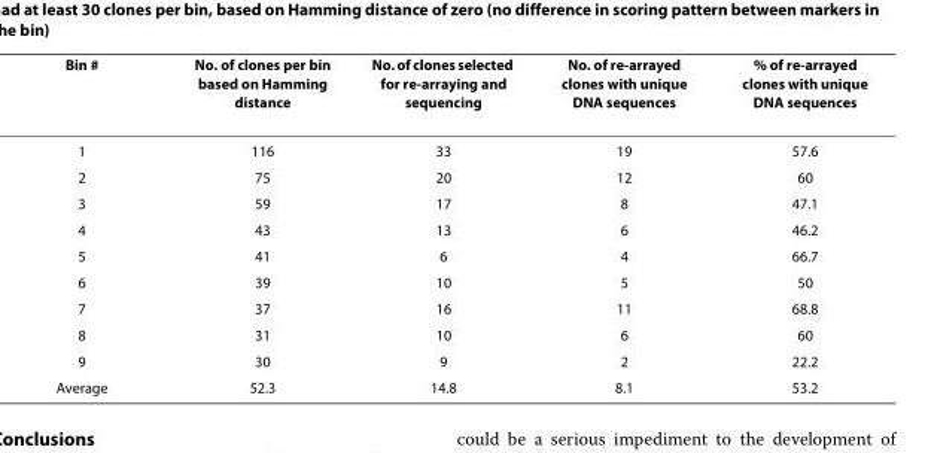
<table><thead><tr><td>Bin #</td><td>No. of clones per bin based on Hamming distance</td><td>No. of clones selected for re-arraying and sequencing</td><td>No. of re-arrayed clones with unique DNA sequences</td><td>% of re-arrayed clones with unique DNA sequences</td></tr></thead><tbody><tr><td>1</td><td>116</td><td>33</td><td>19</td><td>57.6</td></tr><tr><td>2</td><td>75</td><td>20</td><td>12</td><td>60</td></tr><tr><td>3</td><td>59</td><td>17</td><td>8</td><td>47.1</td></tr><tr><td>4</td><td>43</td><td>13</td><td>6</td><td>46.2</td></tr><tr><td>5</td><td>41</td><td>6</td><td>4</td><td>66.7</td></tr><tr><td>6</td><td>39</td><td>10</td><td>5</td><td>50</td></tr><tr><td>7</td><td>37</td><td>16</td><td>11</td><td>68.8</td></tr><tr><td>8</td><td>31</td><td>10</td><td>6</td><td>60</td></tr><tr><td>9</td><td>30</td><td>9</td><td>2</td><td>22.2</td></tr><tr><td>Average</td><td>52.3</td><td>14.8</td><td>8.1</td><td>53.2</td></tr></tbody></table>